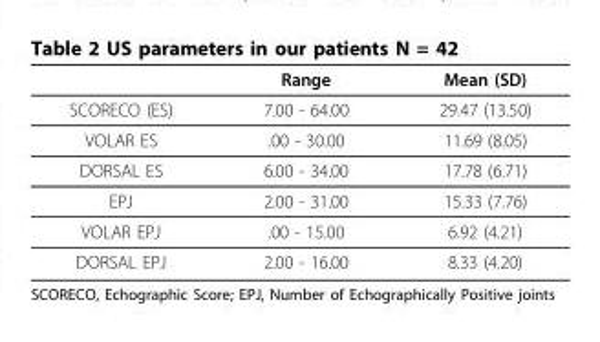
<table><thead><tr><td></td><td>Range</td><td>Mean (SD)</td></tr></thead><tbody><tr><td>SCORECO (ES)</td><td>7.00 - 64.00</td><td>29.47 (13.50)</td></tr><tr><td>VOLAR ES</td><td>.00 - 30.00</td><td>11.69 (8.05)</td></tr><tr><td>DORSAL ES</td><td>6.00 - 34.00</td><td>17.78 (6.71)</td></tr><tr><td>EPJ</td><td>2.00 - 31.00</td><td>15.33 (7.76)</td></tr><tr><td>VOLAR EPJ</td><td>.00 - 15.00</td><td>6.92 (4.21)</td></tr><tr><td>DORSAL EPJ</td><td>2.00 - 16.00</td><td>8.33 (4.20)</td></tr></tbody></table>